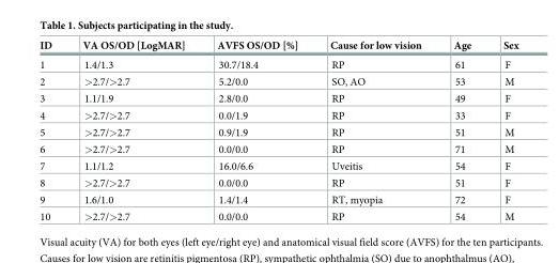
<table><thead><tr><td>ID</td><td>VA OS/OD [LogMAR]</td><td>AVFS OS/OD [%]</td><td>Cause for low vision</td><td>Age</td><td>Sex</td></tr></thead><tbody><tr><td>1</td><td>1.4/1.3</td><td>30.7/18.4</td><td>RP</td><td>61</td><td>F</td></tr><tr><td>2</td><td>&gt;2.7/&gt;2.7</td><td>5.2/0.0</td><td>SO, AO</td><td>53</td><td>M</td></tr><tr><td>3</td><td>1.1/1.9</td><td>2.8/0.0</td><td>RP</td><td>49</td><td>F</td></tr><tr><td>4</td><td>&gt;2.7/&gt;2.7</td><td>0.0/1.9</td><td>RP</td><td>33</td><td>F</td></tr><tr><td>5</td><td>&gt;2.7/&gt;2.7</td><td>0.9/1.9</td><td>RP</td><td>51</td><td>M</td></tr><tr><td>6</td><td>&gt;2.7/&gt;2.7</td><td>0.0/0.0</td><td>RP</td><td>71</td><td>M</td></tr><tr><td>7</td><td>1.1/1.2</td><td>16.0/6.6</td><td>Uveitis</td><td>54</td><td>F</td></tr><tr><td>8</td><td>&gt;2.7/&gt;2.7</td><td>0.0/0.0</td><td>RP</td><td>51</td><td>F</td></tr><tr><td>9</td><td>1.6/1.0</td><td>1.4/1.4</td><td>RT, myopia</td><td>72</td><td>F</td></tr><tr><td>10</td><td>&gt;2.7/&gt;2.7</td><td>0.0/0.0</td><td>RP</td><td>54</td><td>M</td></tr></tbody></table>